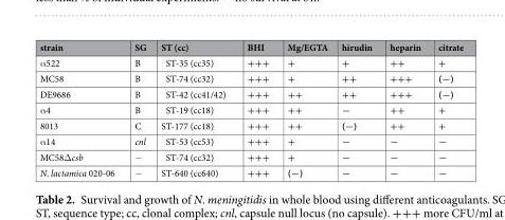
<table><thead><tr><td>strain</td><td>SG</td><td>ST (cc)</td><td>BHI</td><td>Mg/EGTA</td><td>hirudin</td><td>heparin</td><td>citrate</td></tr></thead><tbody><tr><td>α522</td><td>B</td><td>ST-35 (cc35)</td><td>+++</td><td>+</td><td>+</td><td>++</td><td>+</td></tr><tr><td>MC58</td><td>B</td><td>ST-74 (cc32)</td><td>+++</td><td>+</td><td>++</td><td>+++</td><td>(−)</td></tr><tr><td>DE9686</td><td>B</td><td>ST-42 (cc41/42)</td><td>+++</td><td>++</td><td>++</td><td>+++</td><td>(−)</td></tr><tr><td>α4</td><td>B</td><td>ST-19 (cc18)</td><td>+++</td><td>++</td><td>−</td><td>++</td><td>+</td></tr><tr><td>8013</td><td>C</td><td>ST-177 (cc18)</td><td>+++</td><td>++</td><td>(−)</td><td>++</td><td>+</td></tr><tr><td>α14</td><td>cnl</td><td>ST-53 (cc53)</td><td>+++</td><td>+</td><td>−</td><td>−</td><td>−</td></tr><tr><td>MC58Δcsb</td><td>−</td><td>ST-74 (cc32)</td><td>+++</td><td>+</td><td>−</td><td>−</td><td>−</td></tr><tr><td>N. lactamica 020-06</td><td>−</td><td>ST-640 (cc640)</td><td>+++</td><td>(−)</td><td>−</td><td>−</td><td>−</td></tr></tbody></table>